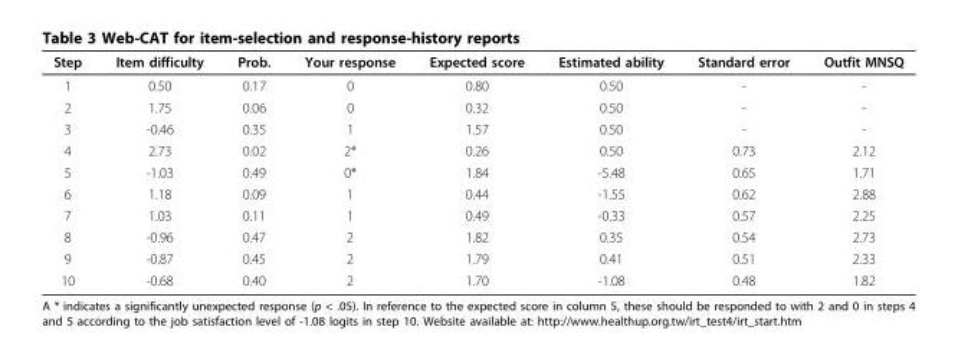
<table><thead><tr><td>Step</td><td>Item difficulty</td><td>Prob.</td><td>Your response</td><td>Expected score</td><td>Estimated ability</td><td>Standard error</td><td>Outfit MNSQ</td></tr></thead><tbody><tr><td>1</td><td>0.50</td><td>0.17</td><td>0</td><td>0.80</td><td>0.50</td><td>-</td><td>-</td></tr><tr><td>2</td><td>1.75</td><td>0.06</td><td>0</td><td>0.32</td><td>0.50</td><td>-</td><td>-</td></tr><tr><td>3</td><td>-0.46</td><td>0.35</td><td>1</td><td>1.57</td><td>0.50</td><td>-</td><td>-</td></tr><tr><td>4</td><td>2.73</td><td>0.02</td><td>2*</td><td>0.26</td><td>0.50</td><td>0.73</td><td>2.12</td></tr><tr><td>5</td><td>-1.03</td><td>0.49</td><td>0*</td><td>1.84</td><td>-5.48</td><td>0.65</td><td>1.71</td></tr><tr><td>6</td><td>1.18</td><td>0.09</td><td>1</td><td>0.44</td><td>-1.55</td><td>0.62</td><td>2.88</td></tr><tr><td>7</td><td>1.03</td><td>0.11</td><td>1</td><td>0.49</td><td>-0.33</td><td>0.57</td><td>2.25</td></tr><tr><td>8</td><td>-0.96</td><td>0.47</td><td>2</td><td>1.82</td><td>0.35</td><td>0.54</td><td>2.73</td></tr><tr><td>9</td><td>-0.87</td><td>0.45</td><td>2</td><td>1.79</td><td>0.41</td><td>0.51</td><td>2.33</td></tr><tr><td>10</td><td>-0.68</td><td>0.40</td><td>2</td><td>1.70</td><td>-1.08</td><td>0.48</td><td>1.82</td></tr></tbody></table>